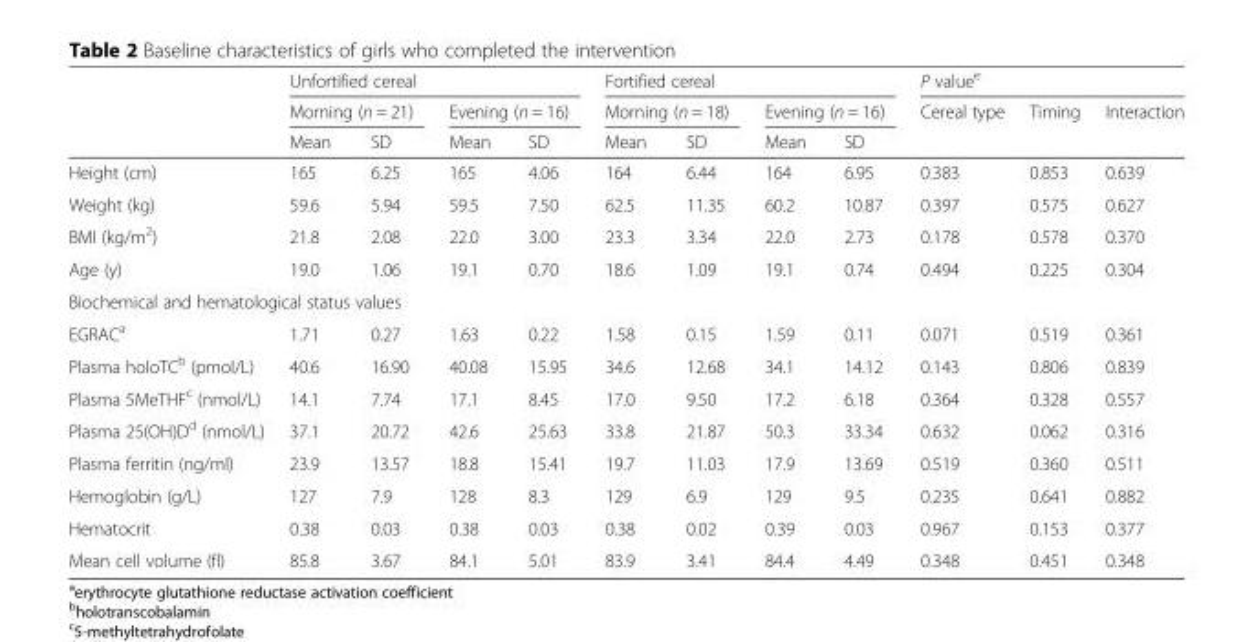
<table><thead><tr><td rowspan="3"></td><td colspan="4">Unfortified cereal</td><td colspan="4">Fortified cereal</td><td colspan="3">P value<sup>e</sup></td></tr><tr><td colspan="2">Morning (n = 21)</td><td colspan="2">Evening (n = 16)</td><td colspan="2">Morning (n = 18)</td><td colspan="2">Evening (n = 16)</td><td rowspan="2">Cereal type</td><td rowspan="2">Timing</td><td rowspan="2">Interaction</td></tr><tr><td>Mean</td><td>SD</td><td>Mean</td><td>SD</td><td>Mean</td><td>SD</td><td>Mean</td><td>SD</td></tr></thead><tbody><tr><td>Height (cm)</td><td>165</td><td>6.25</td><td>165</td><td>4.06</td><td>164</td><td>6.44</td><td>164</td><td>6.95</td><td>0.383</td><td>0.853</td><td>0.639</td></tr><tr><td>Weight (kg)</td><td>59.6</td><td>5.94</td><td>59.5</td><td>7.50</td><td>62.5</td><td>11.35</td><td>60.2</td><td>10.87</td><td>0.397</td><td>0.575</td><td>0.627</td></tr><tr><td>BMI (kg/m<sup>2</sup>)</td><td>21.8</td><td>2.08</td><td>22.0</td><td>3.00</td><td>23.3</td><td>3.34</td><td>22.0</td><td>2.73</td><td>0.178</td><td>0.578</td><td>0.370</td></tr><tr><td>Age (y)</td><td>19.0</td><td>1.06</td><td>19.1</td><td>0.70</td><td>18.6</td><td>1.09</td><td>19.1</td><td>0.74</td><td>0.494</td><td>0.225</td><td>0.304</td></tr><tr><td colspan="12">Biochemical and hematological status values</td></tr><tr><td>EGRAC<sup>a</sup></td><td>1.71</td><td>0.27</td><td>1.63</td><td>0.22</td><td>1.58</td><td>0.15</td><td>1.59</td><td>0.11</td><td>0.071</td><td>0.519</td><td>0.361</td></tr><tr><td>Plasma holoTC<sup>b</sup> (pmol/L)</td><td>40.6</td><td>16.90</td><td>40.08</td><td>15.95</td><td>34.6</td><td>12.68</td><td>34.1</td><td>14.12</td><td>0.143</td><td>0.806</td><td>0.839</td></tr><tr><td>Plasma 5MeTHF<sup>c</sup> (nmol/L)</td><td>14.1</td><td>7.74</td><td>17.1</td><td>8.45</td><td>17.0</td><td>9.50</td><td>17.2</td><td>6.18</td><td>0.364</td><td>0.328</td><td>0.557</td></tr><tr><td>Plasma 25(OH)D<sup>d</sup> (nmol/L)</td><td>37.1</td><td>20.72</td><td>42.6</td><td>25.63</td><td>33.8</td><td>21.87</td><td>50.3</td><td>33.34</td><td>0.632</td><td>0.062</td><td>0.316</td></tr><tr><td>Plasma ferritin (ng/ml)</td><td>23.9</td><td>13.57</td><td>18.8</td><td>15.41</td><td>19.7</td><td>11.03</td><td>17.9</td><td>13.69</td><td>0.519</td><td>0.360</td><td>0.511</td></tr><tr><td>Hemoglobin (g/L)</td><td>127</td><td>7.9</td><td>128</td><td>8.3</td><td>129</td><td>6.9</td><td>129</td><td>9.5</td><td>0.235</td><td>0.641</td><td>0.882</td></tr><tr><td>Hematocrit</td><td>0.38</td><td>0.03</td><td>0.38</td><td>0.03</td><td>0.38</td><td>0.02</td><td>0.39</td><td>0.03</td><td>0.967</td><td>0.153</td><td>0.377</td></tr><tr><td>Mean cell volume (fl)</td><td>85.8</td><td>3.67</td><td>84.1</td><td>5.01</td><td>83.9</td><td>3.41</td><td>84.4</td><td>4.49</td><td>0.348</td><td>0.451</td><td>0.348</td></tr></tbody></table>